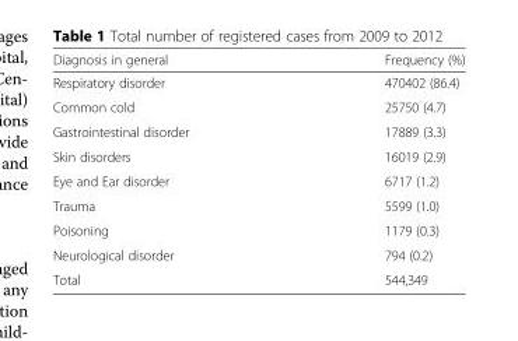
<table><thead><tr><td>Diagnosis in general</td><td>Frequency (%)</td></tr></thead><tbody><tr><td>Respiratory disorder</td><td>470402 (86.4)</td></tr><tr><td>Common cold</td><td>25750 (4.7)</td></tr><tr><td>Gastrointestinal disorder</td><td>17889 (3.3)</td></tr><tr><td>Skin disorders</td><td>16019 (2.9)</td></tr><tr><td>Eye and Ear disorder</td><td>6717 (1.2)</td></tr><tr><td>Trauma</td><td>5599 (1.0)</td></tr><tr><td>Poisoning</td><td>1179 (0.3)</td></tr><tr><td>Neurological disorder</td><td>794 (0.2)</td></tr><tr><td>Total</td><td>544,349</td></tr></tbody></table>